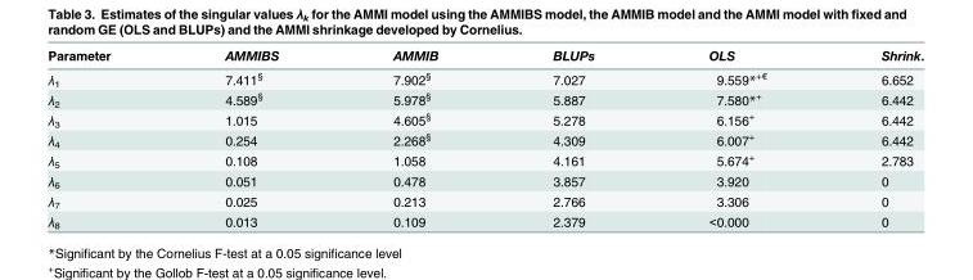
<table><thead><tr><td>Parameter</td><td>AMMIBS</td><td>AMMIB</td><td>BLUPs</td><td>OLS</td><td>Shrink.</td></tr></thead><tbody><tr><td>λ<sub>1</sub></td><td>7.411<sup>§</sup></td><td>7.902<sup>§</sup></td><td>7.027</td><td>9.559*<sup>+€</sup></td><td>6.652</td></tr><tr><td>λ<sub>2</sub></td><td>4.589<sup>§</sup></td><td>5.978<sup>§</sup></td><td>5.887</td><td>7.580*<sup>+</sup></td><td>6.442</td></tr><tr><td>λ<sub>3</sub></td><td>1.015</td><td>4.605<sup>§</sup></td><td>5.278</td><td>6.156<sup>+</sup></td><td>6.442</td></tr><tr><td>λ<sub>4</sub></td><td>0.254</td><td>2.268<sup>§</sup></td><td>4.309</td><td>6.007<sup>+</sup></td><td>6.442</td></tr><tr><td>λ<sub>5</sub></td><td>0.108</td><td>1.058</td><td>4.161</td><td>5.674<sup>+</sup></td><td>2.783</td></tr><tr><td>λ<sub>6</sub></td><td>0.051</td><td>0.478</td><td>3.857</td><td>3.920</td><td>0</td></tr><tr><td>λ<sub>7</sub></td><td>0.025</td><td>0.213</td><td>2.766</td><td>3.306</td><td>0</td></tr><tr><td>λ<sub>8</sub></td><td>0.013</td><td>0.109</td><td>2.379</td><td>&lt;0.000</td><td>0</td></tr></tbody></table>